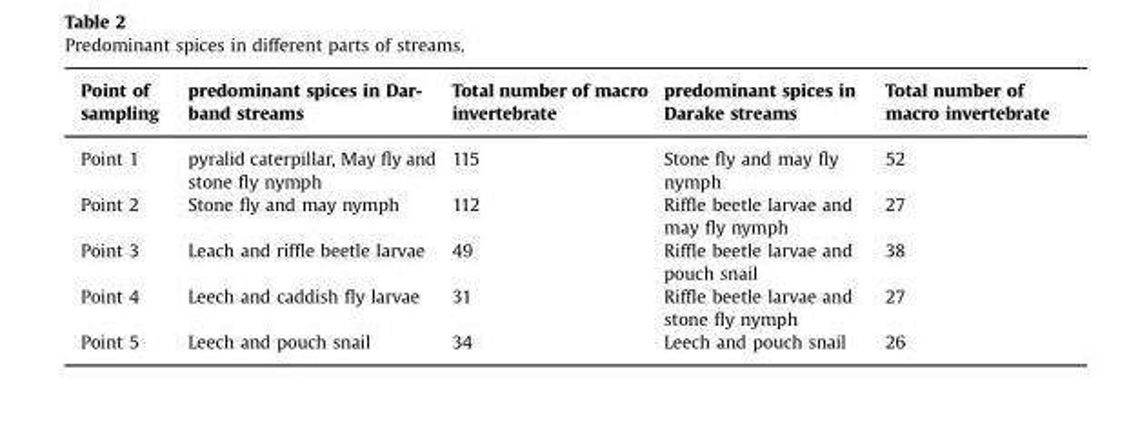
<table><thead><tr><td>Point of sampling</td><td>predominant spices in Dar- band streams</td><td>Total number of macro invertebrate</td><td>predominant spices in Darake streams</td><td>Total number of macro invertebrate</td></tr></thead><tbody><tr><td>Point 1</td><td>pyralid caterpillar, May fly and stone fly nymph</td><td>115</td><td>Stone fly and may fly nymph</td><td>52</td></tr><tr><td>Point 2</td><td>Stone fly and may nymph</td><td>112</td><td>Riffle beetle larvae and may fly nymph</td><td>27</td></tr><tr><td>Point 3</td><td>Leach and riffle beetle larvae</td><td>49</td><td>Riffle beetle larvae and pouch snail</td><td>38</td></tr><tr><td>Point 4</td><td>Leech and caddish fly larvae</td><td>31</td><td>Riffle beetle larvae and stone fly nymph</td><td>27</td></tr><tr><td>Point 5</td><td>Leech and pouch snail</td><td>34</td><td>Leech and pouch snail</td><td>26</td></tr></tbody></table>